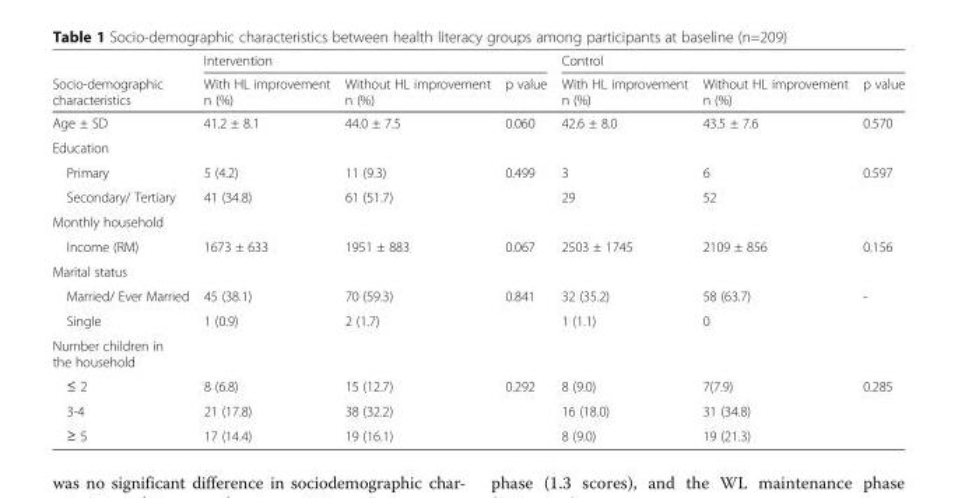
<table><thead><tr><td rowspan="2">Socio-demographic characteristics</td><td colspan="3">Intervention</td><td colspan="3">Control</td></tr><tr><td>With HL improvement n (%)</td><td>Without HL improvement n (%)</td><td>p value</td><td>With HL improvement n (%)</td><td>Without HL improvement n (%)</td><td>p value</td></tr></thead><tbody><tr><td>Age ± SD</td><td>41.2 ± 8.1</td><td>44.0 ± 7.5</td><td>0.060</td><td>42.6 ± 8.0</td><td>43.5 ± 7.6</td><td>0.570</td></tr><tr><td colspan="7">Education</td></tr><tr><td>Primary</td><td>5 (4.2)</td><td>11 (9.3)</td><td>0.499</td><td>3</td><td>6</td><td>0.597</td></tr><tr><td>Secondary/ Tertiary</td><td>41 (34.8)</td><td>61 (51.7)</td><td></td><td>29</td><td>52</td><td></td></tr><tr><td colspan="7">Monthly household</td></tr><tr><td>Income (RM)</td><td>1673 ± 633</td><td>1951 ± 883</td><td>0.067</td><td>2503 ± 1745</td><td>2109 ± 856</td><td>0.156</td></tr><tr><td colspan="7">Marital status</td></tr><tr><td>Married/ Ever Married</td><td>45 (38.1)</td><td>70 (59.3)</td><td>0.841</td><td>32 (35.2)</td><td>58 (63.7)</td><td>-</td></tr><tr><td>Single</td><td>1 (0.9)</td><td>2 (1.7)</td><td></td><td>1 (1.1)</td><td>0</td><td></td></tr><tr><td colspan="7">Number children in the household</td></tr><tr><td>≤ 2</td><td>8 (6.8)</td><td>15 (12.7)</td><td>0.292</td><td>8 (9.0)</td><td>7(7.9)</td><td>0.285</td></tr><tr><td>3-4</td><td>21 (17.8)</td><td>38 (32.2)</td><td></td><td>16 (18.0)</td><td>31 (34.8)</td><td></td></tr><tr><td>≥ 5</td><td>17 (14.4)</td><td>19 (16.1)</td><td></td><td>8 (9.0)</td><td>19 (21.3)</td><td></td></tr></tbody></table>